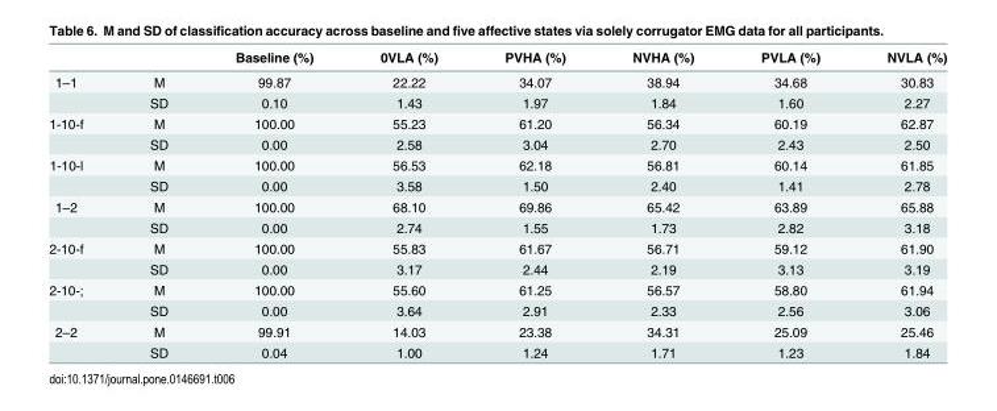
<table><thead><tr><td></td><td></td><td>Baseline (%)</td><td>0VLA (%)</td><td>PVHA (%)</td><td>NVHA (%)</td><td>PVLA (%)</td><td>NVLA (%)</td></tr></thead><tbody><tr><td rowspan="2">1–1</td><td>M</td><td>99.87</td><td>22.22</td><td>34.07</td><td>38.94</td><td>34.68</td><td>30.83</td></tr><tr><td>SD</td><td>0.10</td><td>1.43</td><td>1.97</td><td>1.84</td><td>1.60</td><td>2.27</td></tr><tr><td rowspan="2">1-10-f</td><td>M</td><td>100.00</td><td>55.23</td><td>61.20</td><td>56.34</td><td>60.19</td><td>62.87</td></tr><tr><td>SD</td><td>0.00</td><td>2.58</td><td>3.04</td><td>2.70</td><td>2.43</td><td>2.50</td></tr><tr><td rowspan="2">1-10-l</td><td>M</td><td>100.00</td><td>56.53</td><td>62.18</td><td>56.81</td><td>60.14</td><td>61.85</td></tr><tr><td>SD</td><td>0.00</td><td>3.58</td><td>1.50</td><td>2.40</td><td>1.41</td><td>2.78</td></tr><tr><td rowspan="2">1–2</td><td>M</td><td>100.00</td><td>68.10</td><td>69.86</td><td>65.42</td><td>63.89</td><td>65.88</td></tr><tr><td>SD</td><td>0.00</td><td>2.74</td><td>1.55</td><td>1.73</td><td>2.82</td><td>3.18</td></tr><tr><td rowspan="2">2-10-f</td><td>M</td><td>100.00</td><td>55.83</td><td>61.67</td><td>56.71</td><td>59.12</td><td>61.90</td></tr><tr><td>SD</td><td>0.00</td><td>3.17</td><td>2.44</td><td>2.19</td><td>3.13</td><td>3.19</td></tr><tr><td rowspan="2">2-10-;</td><td>M</td><td>100.00</td><td>55.60</td><td>61.25</td><td>56.57</td><td>58.80</td><td>61.94</td></tr><tr><td>SD</td><td>0.00</td><td>3.64</td><td>2.91</td><td>2.33</td><td>2.56</td><td>3.06</td></tr><tr><td rowspan="2">2–2</td><td>M</td><td>99.91</td><td>14.03</td><td>23.38</td><td>34.31</td><td>25.09</td><td>25.46</td></tr><tr><td>SD</td><td>0.04</td><td>1.00</td><td>1.24</td><td>1.71</td><td>1.23</td><td>1.84</td></tr></tbody></table>